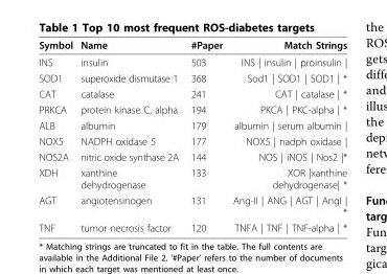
<table><thead><tr><td>Symbol</td><td>Name</td><td>#Paper</td><td>Match Strings</td></tr></thead><tbody><tr><td>INS</td><td>insulin</td><td>503</td><td>INS | insulin | proinsulin |</td></tr><tr><td>SOD1</td><td>superoxide dismutase 1</td><td>368</td><td>Sod1 | SOD1 | SOD1 | *</td></tr><tr><td>CAT</td><td>catalase</td><td>241</td><td>CAT | catalase | *</td></tr><tr><td>PRKCA</td><td>protein kinase C, alpha</td><td>194</td><td>PKCA | PKC-alpha | *</td></tr><tr><td>ALB</td><td>albumin</td><td>179</td><td>albumin | serum albumin |</td></tr><tr><td>NOX5</td><td>NADPH oxidase 5</td><td>177</td><td>NOX5 | nadph oxidase |</td></tr><tr><td>NOS2A</td><td>nitric oxide synthase 2A</td><td>144</td><td>NOS | iNOS | Nos2 |*</td></tr><tr><td>XDH</td><td>xanthine dehydrogenase</td><td>133</td><td>XOR |xanthine dehydrogenase| *</td></tr><tr><td>AGT</td><td>angiotensinogen</td><td>131</td><td>Ang-II | ANG | AGT | AngI | *</td></tr><tr><td>TNF</td><td>tumor necrosis factor</td><td>120</td><td>TNFA | TNF | TNF-alpha | *</td></tr></tbody></table>